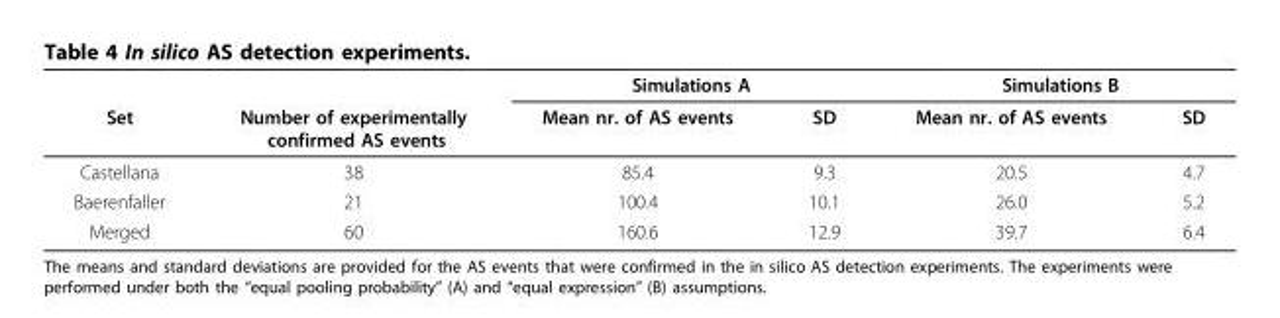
<table><thead><tr><td rowspan="2">Set</td><td rowspan="2">Number of experimentally confirmed AS events</td><td colspan="2">Simulations A</td><td colspan="2">Simulations B</td></tr><tr><td>Mean nr. of AS events</td><td>SD</td><td>Mean nr. of AS events</td><td>SD</td></tr></thead><tbody><tr><td>Castellana</td><td>38</td><td>85.4</td><td>9.3</td><td>20.5</td><td>4.7</td></tr><tr><td>Baerenfaller</td><td>21</td><td>100.4</td><td>10.1</td><td>26.0</td><td>5.2</td></tr><tr><td>Merged</td><td>60</td><td>160.6</td><td>12.9</td><td>39.7</td><td>6.4</td></tr></tbody></table>